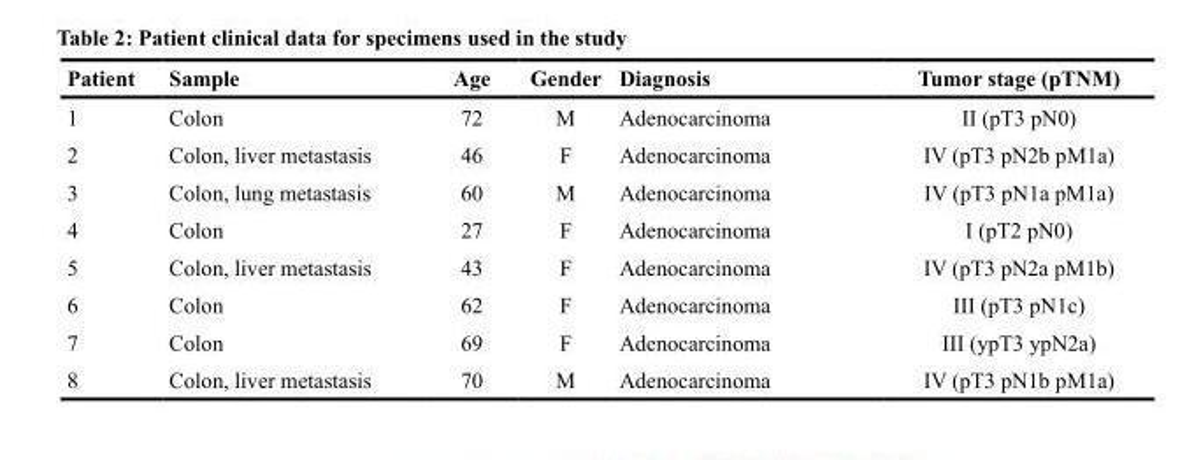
<table><thead><tr><td>Patient</td><td>Sample</td><td>Age</td><td>Gender</td><td>Diagnosis</td><td>Tumor stage (pTNM)</td></tr></thead><tbody><tr><td>1</td><td>Colon</td><td>72</td><td>M</td><td>Adenocarcinoma</td><td>II (pT3 pN0)</td></tr><tr><td>2</td><td>Colon, liver metastasis</td><td>46</td><td>F</td><td>Adenocarcinoma</td><td>IV (pT3 pN2b pM1a)</td></tr><tr><td>3</td><td>Colon, lung metastasis</td><td>60</td><td>M</td><td>Adenocarcinoma</td><td>IV (pT3 pN1a pM1a)</td></tr><tr><td>4</td><td>Colon</td><td>27</td><td>F</td><td>Adenocarcinoma</td><td>I (pT2 pN0)</td></tr><tr><td>5</td><td>Colon, liver metastasis</td><td>43</td><td>F</td><td>Adenocarcinoma</td><td>IV (pT3 pN2a pM1b)</td></tr><tr><td>6</td><td>Colon</td><td>62</td><td>F</td><td>Adenocarcinoma</td><td>III (pT3 pN1c)</td></tr><tr><td>7</td><td>Colon</td><td>69</td><td>F</td><td>Adenocarcinoma</td><td>III (ypT3 ypN2a)</td></tr><tr><td>8</td><td>Colon, liver metastasis</td><td>70</td><td>M</td><td>Adenocarcinoma</td><td>IV (pT3 pN1b pM1a)</td></tr></tbody></table>